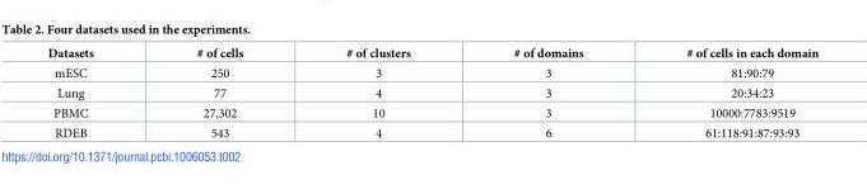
<table><thead><tr><td>Datasets</td><td># of cells</td><td># of clusters</td><td># of domains</td><td># of cells in each domain</td></tr></thead><tbody><tr><td>mESC</td><td>250</td><td>3</td><td>3</td><td>81:90:79</td></tr><tr><td>Lung</td><td>77</td><td>4</td><td>3</td><td>20:34:23</td></tr><tr><td>PBMC</td><td>27,302</td><td>10</td><td>3</td><td>10000:7783:9519</td></tr><tr><td>RDEB</td><td>543</td><td>4</td><td>6</td><td>61:118:91:87:93:93</td></tr></tbody></table>